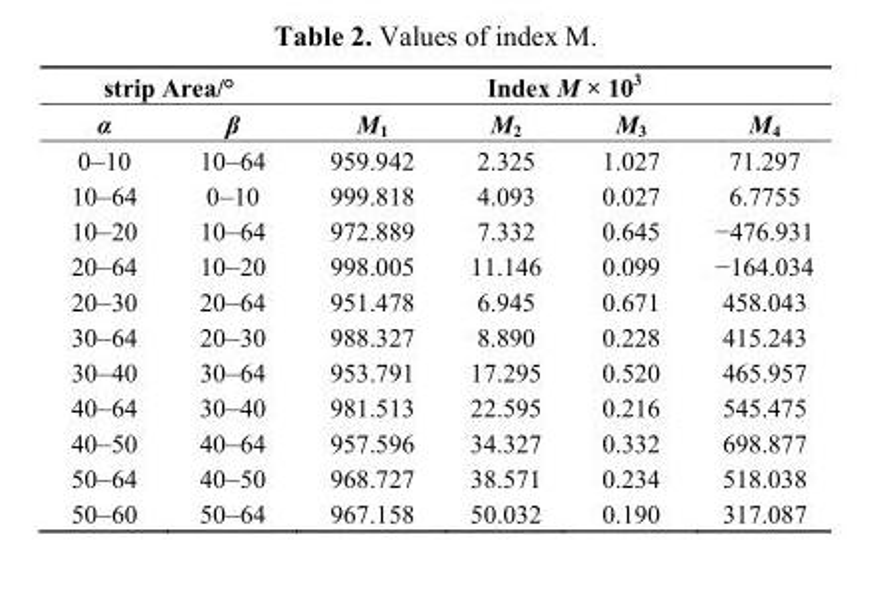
<table><thead><tr><td colspan="2">strip Area/°</td><td colspan="4">Index M × 10<sup>3</sup></td></tr><tr><td>α</td><td>β</td><td>M<sub>1</sub></td><td>M<sub>2</sub></td><td>M<sub>3</sub></td><td>M<sub>4</sub></td></tr></thead><tbody><tr><td>0–10</td><td>10–64</td><td>959.942</td><td>2.325</td><td>1.027</td><td>71.297</td></tr><tr><td>10–64</td><td>0–10</td><td>999.818</td><td>4.093</td><td>0.027</td><td>6.7755</td></tr><tr><td>10–20</td><td>10–64</td><td>972.889</td><td>7.332</td><td>0.645</td><td>−476.931</td></tr><tr><td>20–64</td><td>10–20</td><td>998.005</td><td>11.146</td><td>0.099</td><td>−164.034</td></tr><tr><td>20–30</td><td>20–64</td><td>951.478</td><td>6.945</td><td>0.671</td><td>458.043</td></tr><tr><td>30–64</td><td>20–30</td><td>988.327</td><td>8.890</td><td>0.228</td><td>415.243</td></tr><tr><td>30–40</td><td>30–64</td><td>953.791</td><td>17.295</td><td>0.520</td><td>465.957</td></tr><tr><td>40–64</td><td>30–40</td><td>981.513</td><td>22.595</td><td>0.216</td><td>545.475</td></tr><tr><td>40–50</td><td>40–64</td><td>957.596</td><td>34.327</td><td>0.332</td><td>698.877</td></tr><tr><td>50–64</td><td>40–50</td><td>968.727</td><td>38.571</td><td>0.234</td><td>518.038</td></tr><tr><td>50–60</td><td>50–64</td><td>967.158</td><td>50.032</td><td>0.190</td><td>317.087</td></tr></tbody></table>